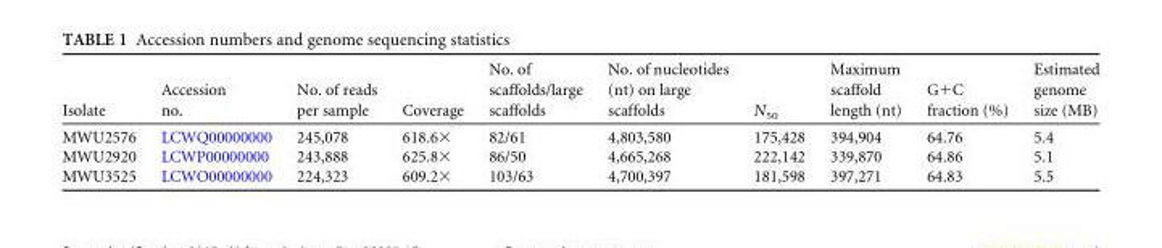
<table><thead><tr><td>Isolate</td><td>Accession no.</td><td>No. of reads per sample</td><td>Coverage</td><td>No. of scaffolds/large scaffolds</td><td>No. of nucleotides (nt) on large scaffolds</td><td>N<sub>50</sub></td><td>Maximum scaffold length (nt)</td><td>G+C fraction (%)</td><td>Estimated genome size (MB)</td></tr></thead><tbody><tr><td>MWU2576</td><td>LCWQ00000000</td><td>245,078</td><td>618.6×</td><td>82/61</td><td>4,803,580</td><td>175,428</td><td>394,904</td><td>64.76</td><td>5.4</td></tr><tr><td>MWU2920</td><td>LCWP00000000</td><td>243,888</td><td>625.8×</td><td>86/50</td><td>4,665,268</td><td>222,142</td><td>339,870</td><td>64.86</td><td>5.1</td></tr><tr><td>MWU3525</td><td>LCWO00000000</td><td>224,323</td><td>609.2×</td><td>103/63</td><td>4,700,397</td><td>181,598</td><td>397,271</td><td>64.83</td><td>5.5</td></tr></tbody></table>